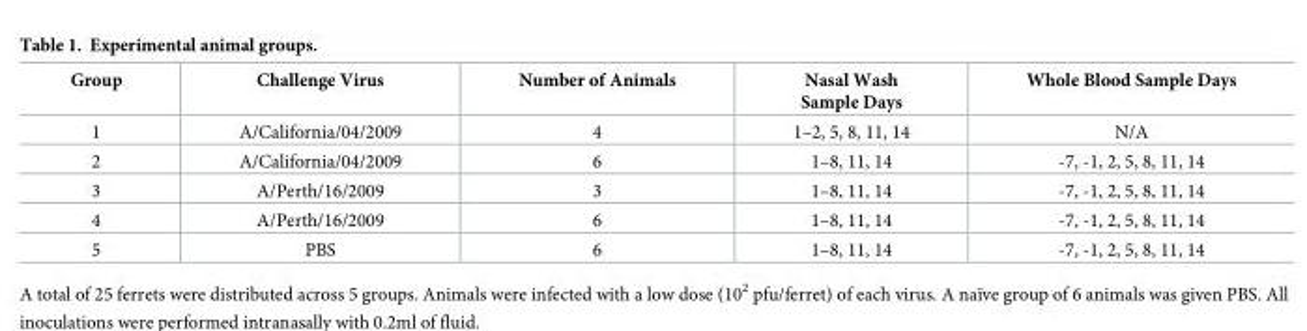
<table><thead><tr><td>Group</td><td>Challenge Virus</td><td>Number of Animals</td><td>Nasal Wash Sample Days</td><td>Whole Blood Sample Days</td></tr></thead><tbody><tr><td>1</td><td>A/California/04/2009</td><td>4</td><td>1–2, 5, 8, 11, 14</td><td>N/A</td></tr><tr><td>2</td><td>A/California/04/2009</td><td>6</td><td>1–8, 11, 14</td><td>-7, -1, 2, 5, 8, 11, 14</td></tr><tr><td>3</td><td>A/Perth/16/2009</td><td>3</td><td>1–8, 11, 14</td><td>-7, -1, 2, 5, 8, 11, 14</td></tr><tr><td>4</td><td>A/Perth/16/2009</td><td>6</td><td>1–8, 11, 14</td><td>-7, -1, 2, 5, 8, 11, 14</td></tr><tr><td>5</td><td>PBS</td><td>6</td><td>1–8, 11, 14</td><td>-7, -1, 2, 5, 8, 11, 14</td></tr></tbody></table>